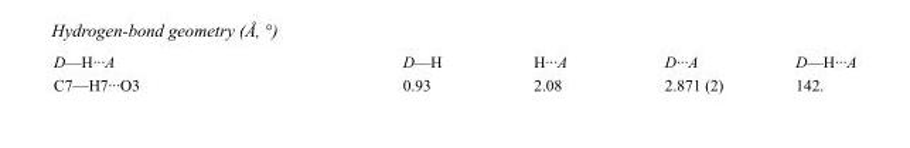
<table><tbody><tr><td>D—H···A</td><td>D—H</td><td>H···A</td><td>D···A</td><td>D—H···A</td></tr><tr><td>C7—H7···O3</td><td>0.93</td><td>2.08</td><td>2.871 (2)</td><td>142.</td></tr></tbody></table>